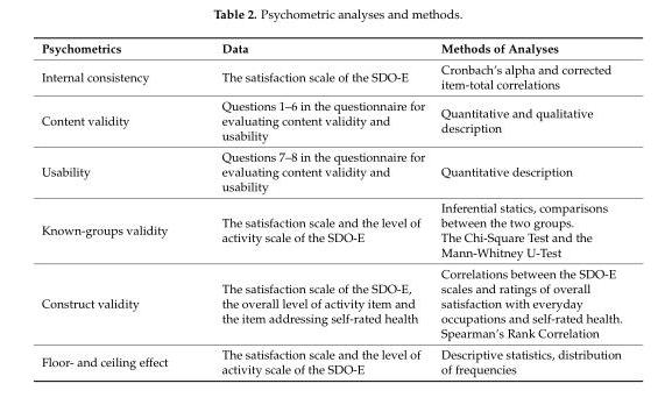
<table><thead><tr><td>Psychometrics</td><td>Data</td><td>Methods of Analyses</td></tr></thead><tbody><tr><td>Internal consistency</td><td>The satisfaction scale of the SDO-E</td><td>Cronbach’s alpha and corrected item-total correlations</td></tr><tr><td>Content validity</td><td>Questions 1–6 in the questionnaire for evaluating content validity and usability</td><td>Quantitative and qualitative description</td></tr><tr><td>Usability</td><td>Questions 7–8 in the questionnaire for evaluating content validity and usability</td><td>Quantitative description</td></tr><tr><td>Known-groups validity</td><td>The satisfaction scale and the level of activity scale of the SDO-E</td><td>Inferential statics, comparisons between the two groups. The Chi-Square Test and the Mann-Whitney U-Test</td></tr><tr><td>Construct validity</td><td>The satisfaction scale of the SDO-E, the overall level of activity item and the item addressing self-rated health</td><td>Correlations between the SDO-E scales and ratings of overall satisfaction with everyday occupations and self-rated health. Spearman’s Rank Correlation</td></tr><tr><td>Floor- and ceiling effect</td><td>The satisfaction scale and the level of activity scale of the SDO-E</td><td>Descriptive statistics, distribution of frequencies</td></tr></tbody></table>